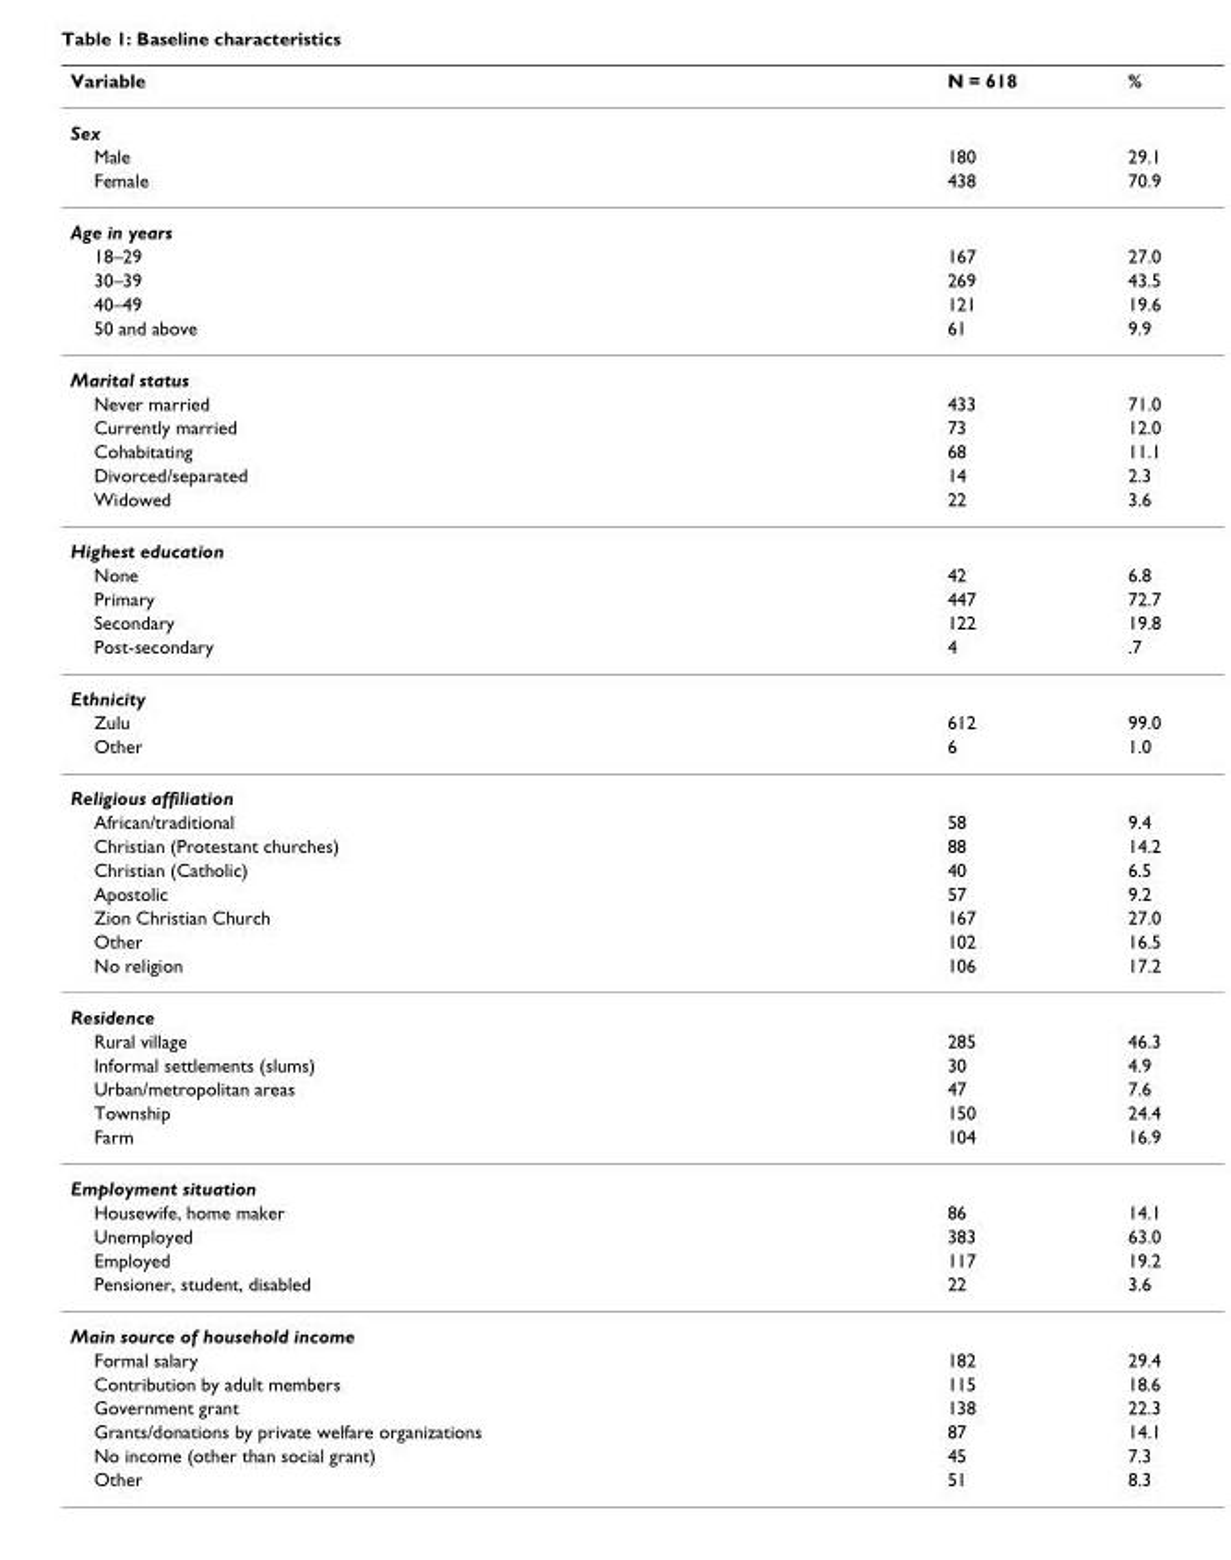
<table><thead><tr><td>Variable</td><td>N = 618</td><td>%</td></tr></thead><tbody><tr><td colspan="3">Sex</td></tr><tr><td>Male</td><td>180</td><td>29.1</td></tr><tr><td>Female</td><td>438</td><td>70.9</td></tr><tr><td colspan="3">Age in years</td></tr><tr><td>18–29</td><td>167</td><td>27.0</td></tr><tr><td>30–39</td><td>269</td><td>43.5</td></tr><tr><td>40–49</td><td>121</td><td>19.6</td></tr><tr><td>50 and above</td><td>61</td><td>9.9</td></tr><tr><td colspan="3">Marital status</td></tr><tr><td>Never married</td><td>433</td><td>71.0</td></tr><tr><td>Currently married</td><td>73</td><td>12.0</td></tr><tr><td>Cohabitating</td><td>68</td><td>11.1</td></tr><tr><td>Divorced/separated</td><td>14</td><td>2.3</td></tr><tr><td>Widowed</td><td>22</td><td>3.6</td></tr><tr><td colspan="3">Highest education</td></tr><tr><td>None</td><td>42</td><td>6.8</td></tr><tr><td>Primary</td><td>447</td><td>72.7</td></tr><tr><td>Secondary</td><td>122</td><td>19.8</td></tr><tr><td>Post-secondary</td><td>4</td><td>.7</td></tr><tr><td colspan="3">Ethnicity</td></tr><tr><td>Zulu</td><td>612</td><td>99.0</td></tr><tr><td>Other</td><td>6</td><td>1.0</td></tr><tr><td colspan="3">Religious affiliation</td></tr><tr><td>African/traditional</td><td>58</td><td>9.4</td></tr><tr><td>Christian (Protestant churches)</td><td>88</td><td>14.2</td></tr><tr><td>Christian (Catholic)</td><td>40</td><td>6.5</td></tr><tr><td>Apostolic</td><td>57</td><td>9.2</td></tr><tr><td>Zion Christian Church</td><td>167</td><td>27.0</td></tr><tr><td>Other</td><td>102</td><td>16.5</td></tr><tr><td>No religion</td><td>106</td><td>17.2</td></tr><tr><td colspan="3">Residence</td></tr><tr><td>Rural village</td><td>285</td><td>46.3</td></tr><tr><td>Informal settlements (slums)</td><td>30</td><td>4.9</td></tr><tr><td>Urban/metropolitan areas</td><td>47</td><td>7.6</td></tr><tr><td>Township</td><td>150</td><td>24.4</td></tr><tr><td>Farm</td><td>104</td><td>16.9</td></tr><tr><td colspan="3">Employment situation</td></tr><tr><td>Housewife, home maker</td><td>86</td><td>14.1</td></tr><tr><td>Unemployed</td><td>383</td><td>63.0</td></tr><tr><td>Employed</td><td>117</td><td>19.2</td></tr><tr><td>Pensioner, student, disabled</td><td>22</td><td>3.6</td></tr><tr><td colspan="3">Main source of household income</td></tr><tr><td>Formal salary</td><td>182</td><td>29.4</td></tr><tr><td>Contribution by adult members</td><td>115</td><td>18.6</td></tr><tr><td>Government grant</td><td>138</td><td>22.3</td></tr><tr><td>Grants/donations by private welfare organizations</td><td>87</td><td>14.1</td></tr><tr><td>No income (other than social grant)</td><td>45</td><td>7.3</td></tr><tr><td>Other</td><td>51</td><td>8.3</td></tr></tbody></table>